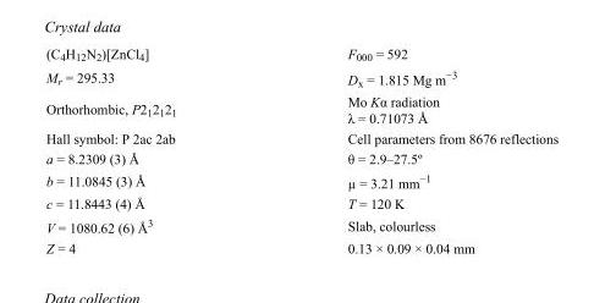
<table><tbody><tr><td>(C<sub>4</sub>H<sub>12</sub>N<sub>2</sub>)[ZnCl<sub>4</sub>]</td><td>F000 = 592</td></tr><tr><td>M<sub>r</sub> = 295.33</td><td>D<sub>x</sub> = 1.815 Mg m<sup>−3</sup></td></tr><tr><td>Orthorhombic, P2<sub>1</sub>2<sub>1</sub>2<sub>1</sub></td><td>Mo Kα radiation λ = 0.71073 Å</td></tr><tr><td>Hall symbol: P 2ac 2ab</td><td>Cell parameters from 8676 reflections</td></tr><tr><td>a = 8.2309 (3) Å</td><td>θ = 2.9–27.5º</td></tr><tr><td>b = 11.0845 (3) Å</td><td>µ = 3.21 mm<sup>−1</sup></td></tr><tr><td>c = 11.8443 (4) Å</td><td>T = 120 K</td></tr><tr><td>V = 1080.62 (6) Å<sup>3</sup></td><td>Slab, colourless</td></tr><tr><td>Z = 4</td><td>0.13 × 0.09 × 0.04 mm</td></tr></tbody></table>